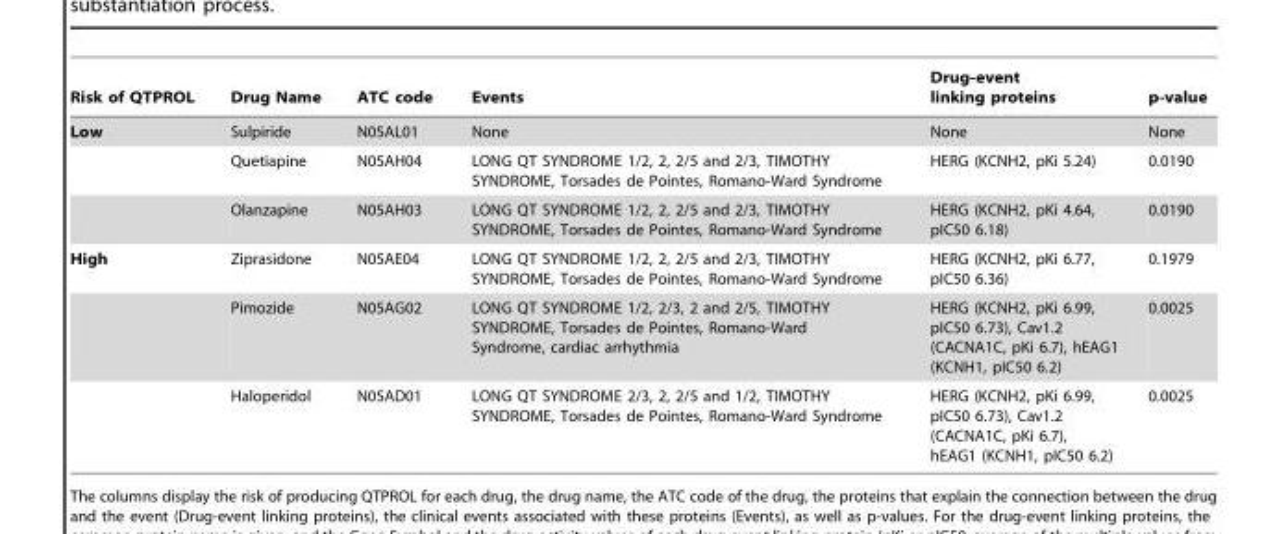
<table><thead><tr><td>Risk of QTPROL</td><td>Drug Name</td><td>ATC code</td><td>Events</td><td>Drug-event linking proteins</td><td>p-value</td></tr></thead><tbody><tr><td rowspan="3">Low</td><td>Sulpiride</td><td>N05AL01</td><td>None</td><td>None</td><td>None</td></tr><tr><td>Quetiapine</td><td>N05AH04</td><td>LONG QT SYNDROME 1/2, 2, 2/5 and 2/3, TIMOTHY SYNDROME, Torsades de Pointes, Romano-Ward Syndrome</td><td>HERG (KCNH2, pKi 5.24)</td><td>0.0190</td></tr><tr><td>Olanzapine</td><td>N05AH03</td><td>LONG QT SYNDROME 1/2, 2, 2/5 and 2/3, TIMOTHY SYNDROME, Torsades de Pointes, Romano-Ward Syndrome</td><td>HERG (KCNH2, pKi 4.64, pIC50 6.18)</td><td>0.0190</td></tr><tr><td rowspan="3">High</td><td>Ziprasidone</td><td>N05AE04</td><td>LONG QT SYNDROME 1/2, 2, 2/5 and 2/3, TIMOTHY SYNDROME, Torsades de Pointes, Romano-Ward Syndrome</td><td>HERG (KCNH2, pKi 6.77, pIC50 6.36)</td><td>0.1979</td></tr><tr><td>Pimozide</td><td>N05AG02</td><td>LONG QT SYNDROME 1/2, 2/3, 2 and 2/5, TIMOTHY SYNDROME, Torsades de Pointes, Romano-Ward Syndrome, cardiac arrhythmia</td><td>HERG (KCNH2, pKi 6.99, pIC50 6.73), Cav1.2 (CACNA1C, pKi 6.7), hEAG1 (KCNH1, pIC50 6.2)</td><td>0.0025</td></tr><tr><td>Haloperidol</td><td>N05AD01</td><td>LONG QT SYNDROME 2/3, 2, 2/5 and 1/2, TIMOTHY SYNDROME, Torsades de Pointes, Romano-Ward Syndrome</td><td>HERG (KCNH2, pKi 6.99, pIC50 6.73), Cav1.2 (CACNA1C, pKi 6.7), hEAG1 (KCNH1, pIC50 6.2)</td><td>0.0025</td></tr></tbody></table>